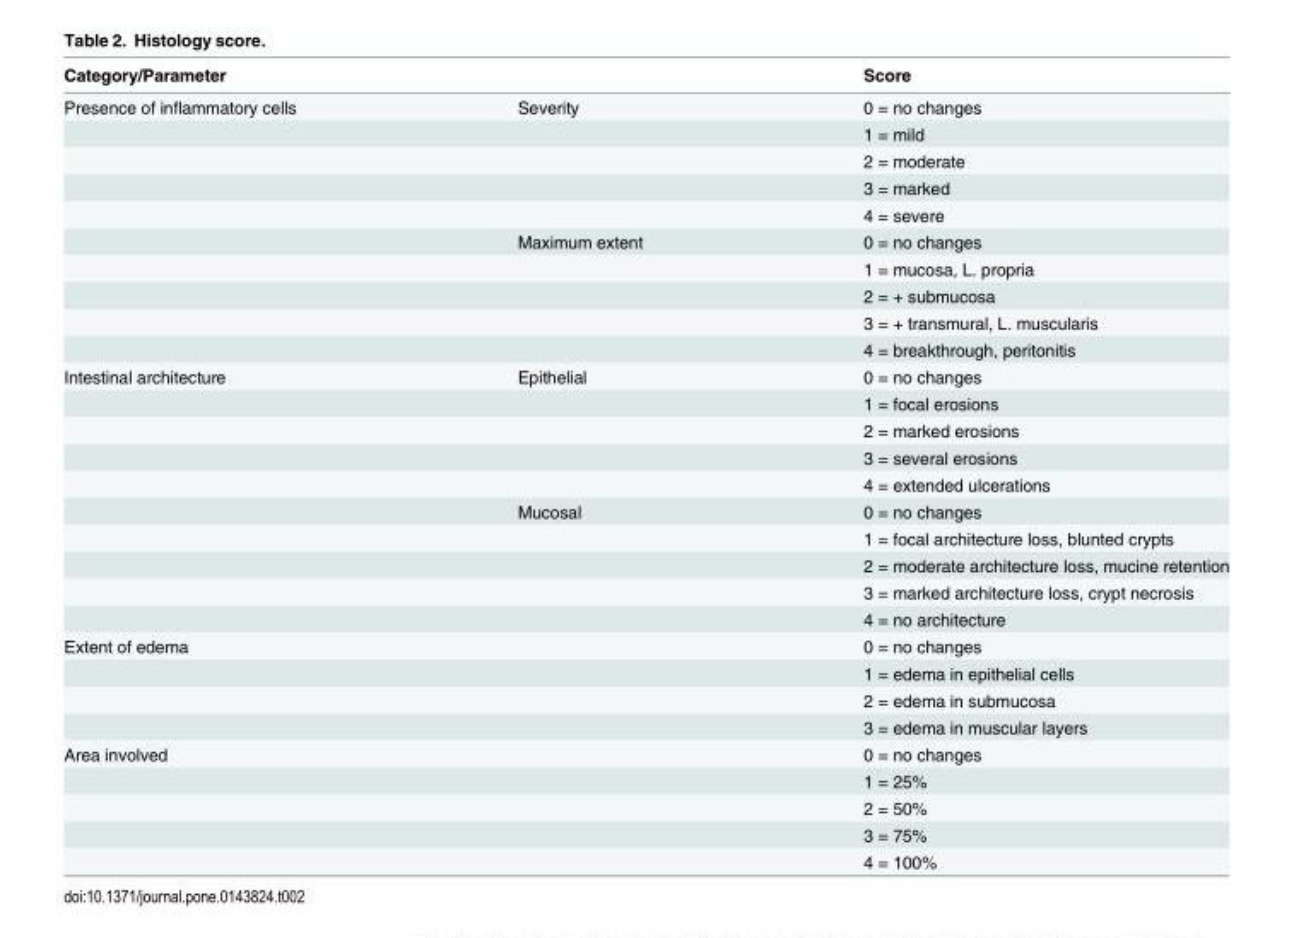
<table><thead><tr><td>Category/Parameter</td><td></td><td>Score</td></tr></thead><tbody><tr><td rowspan="10">Presence of inflammatory cells</td><td>Severity</td><td>0 = no changes</td></tr><tr><td></td><td>1 = mild</td></tr><tr><td></td><td>2 = moderate</td></tr><tr><td></td><td>3 = marked</td></tr><tr><td></td><td>4 = severe</td></tr><tr><td>Maximum extent</td><td>0 = no changes</td></tr><tr><td></td><td>1 = mucosa, L. propria</td></tr><tr><td></td><td>2 = + submucosa</td></tr><tr><td></td><td>3 = + transmural, L. muscularis</td></tr><tr><td></td><td>4 = breakthrough, peritonitis</td></tr><tr><td rowspan="10">Intestinal architecture</td><td>Epithelial</td><td>0 = no changes</td></tr><tr><td></td><td>1 = focal erosions</td></tr><tr><td></td><td>2 = marked erosions</td></tr><tr><td></td><td>3 = several erosions</td></tr><tr><td></td><td>4 = extended ulcerations</td></tr><tr><td>Mucosal</td><td>0 = no changes</td></tr><tr><td></td><td>1 = focal architecture loss, blunted crypts</td></tr><tr><td></td><td>2 = moderate architecture loss, mucine retention</td></tr><tr><td></td><td>3 = marked architecture loss, crypt necrosis</td></tr><tr><td></td><td>4 = no architecture</td></tr><tr><td rowspan="4">Extent of edema</td><td></td><td>0 = no changes</td></tr><tr><td></td><td>1 = edema in epithelial cells</td></tr><tr><td></td><td>2 = edema in submucosa</td></tr><tr><td></td><td>3 = edema in muscular layers</td></tr><tr><td rowspan="5">Area involved</td><td></td><td>0 = no changes</td></tr><tr><td></td><td>1 = 25%</td></tr><tr><td></td><td>2 = 50%</td></tr><tr><td></td><td>3 = 75%</td></tr><tr><td></td><td>4 = 100%</td></tr></tbody></table>